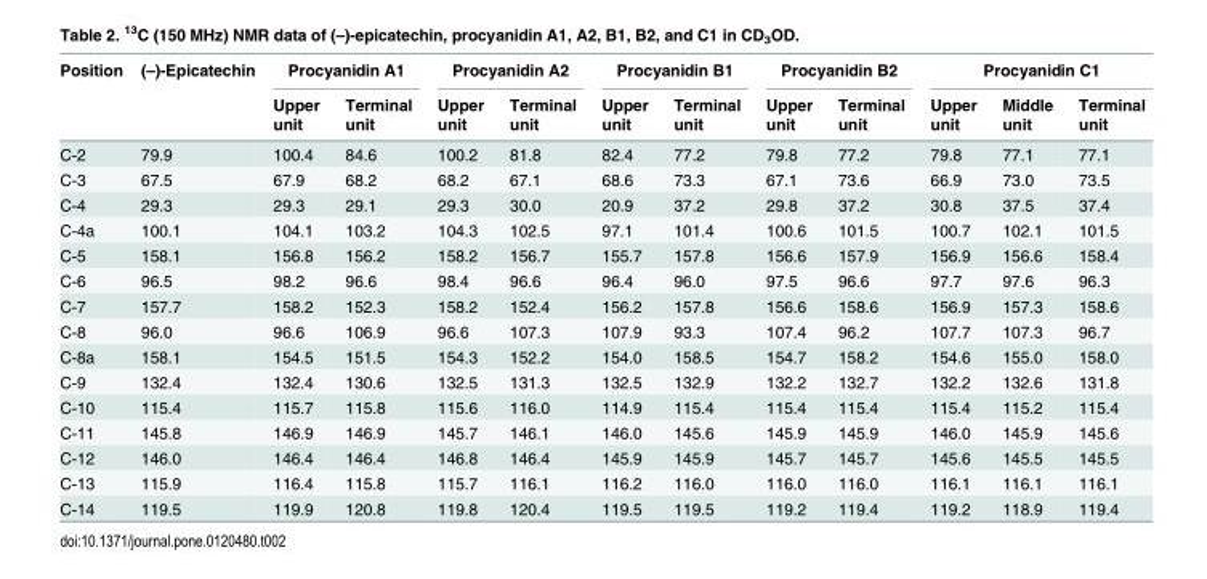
<table><thead><tr><td rowspan="2">Position</td><td rowspan="2">(–)-Epicatechin</td><td colspan="2">Procyanidin A1</td><td colspan="2">Procyanidin A2</td><td colspan="2">Procyanidin B1</td><td colspan="2">Procyanidin B2</td><td colspan="3">Procyanidin C1</td></tr><tr><td>Upper unit</td><td>Terminal unit</td><td>Upper unit</td><td>Terminal unit</td><td>Upper unit</td><td>Terminal unit</td><td>Upper unit</td><td>Terminal unit</td><td>Upper unit</td><td>Middle unit</td><td>Terminal unit</td></tr></thead><tbody><tr><td>C-2</td><td>79.9</td><td>100.4</td><td>84.6</td><td>100.2</td><td>81.8</td><td>82.4</td><td>77.2</td><td>79.8</td><td>77.2</td><td>79.8</td><td>77.1</td><td>77.1</td></tr><tr><td>C-3</td><td>67.5</td><td>67.9</td><td>68.2</td><td>68.2</td><td>67.1</td><td>68.6</td><td>73.3</td><td>67.1</td><td>73.6</td><td>66.9</td><td>73.0</td><td>73.5</td></tr><tr><td>C-4</td><td>29.3</td><td>29.3</td><td>29.1</td><td>29.3</td><td>30.0</td><td>20.9</td><td>37.2</td><td>29.8</td><td>37.2</td><td>30.8</td><td>37.5</td><td>37.4</td></tr><tr><td>C-4a</td><td>100.1</td><td>104.1</td><td>103.2</td><td>104.3</td><td>102.5</td><td>97.1</td><td>101.4</td><td>100.6</td><td>101.5</td><td>100.7</td><td>102.1</td><td>101.5</td></tr><tr><td>C-5</td><td>158.1</td><td>156.8</td><td>156.2</td><td>158.2</td><td>156.7</td><td>155.7</td><td>157.8</td><td>156.6</td><td>157.9</td><td>156.9</td><td>156.6</td><td>158.4</td></tr><tr><td>C-6</td><td>96.5</td><td>98.2</td><td>96.6</td><td>98.4</td><td>96.6</td><td>96.4</td><td>96.0</td><td>97.5</td><td>96.6</td><td>97.7</td><td>97.6</td><td>96.3</td></tr><tr><td>C-7</td><td>157.7</td><td>158.2</td><td>152.3</td><td>158.2</td><td>152.4</td><td>156.2</td><td>157.8</td><td>156.6</td><td>158.6</td><td>156.9</td><td>157.3</td><td>158.6</td></tr><tr><td>C-8</td><td>96.0</td><td>96.6</td><td>106.9</td><td>96.6</td><td>107.3</td><td>107.9</td><td>93.3</td><td>107.4</td><td>96.2</td><td>107.7</td><td>107.3</td><td>96.7</td></tr><tr><td>C-8a</td><td>158.1</td><td>154.5</td><td>151.5</td><td>154.3</td><td>152.2</td><td>154.0</td><td>158.5</td><td>154.7</td><td>158.2</td><td>154.6</td><td>155.0</td><td>158.0</td></tr><tr><td>C-9</td><td>132.4</td><td>132.4</td><td>130.6</td><td>132.5</td><td>131.3</td><td>132.5</td><td>132.9</td><td>132.2</td><td>132.7</td><td>132.2</td><td>132.6</td><td>131.8</td></tr><tr><td>C-10</td><td>115.4</td><td>115.7</td><td>115.8</td><td>115.6</td><td>116.0</td><td>114.9</td><td>115.4</td><td>115.4</td><td>115.4</td><td>115.4</td><td>115.2</td><td>115.4</td></tr><tr><td>C-11</td><td>145.8</td><td>146.9</td><td>146.9</td><td>145.7</td><td>146.1</td><td>146.0</td><td>145.6</td><td>145.9</td><td>145.9</td><td>146.0</td><td>145.9</td><td>145.6</td></tr><tr><td>C-12</td><td>146.0</td><td>146.4</td><td>146.4</td><td>146.8</td><td>146.4</td><td>145.9</td><td>145.9</td><td>145.7</td><td>145.7</td><td>145.6</td><td>145.5</td><td>145.5</td></tr><tr><td>C-13</td><td>115.9</td><td>116.4</td><td>115.8</td><td>115.7</td><td>116.1</td><td>116.2</td><td>116.0</td><td>116.0</td><td>116.0</td><td>116.1</td><td>116.1</td><td>116.1</td></tr><tr><td>C-14</td><td>119.5</td><td>119.9</td><td>120.8</td><td>119.8</td><td>120.4</td><td>119.5</td><td>119.5</td><td>119.2</td><td>119.4</td><td>119.2</td><td>118.9</td><td>119.4</td></tr></tbody></table>